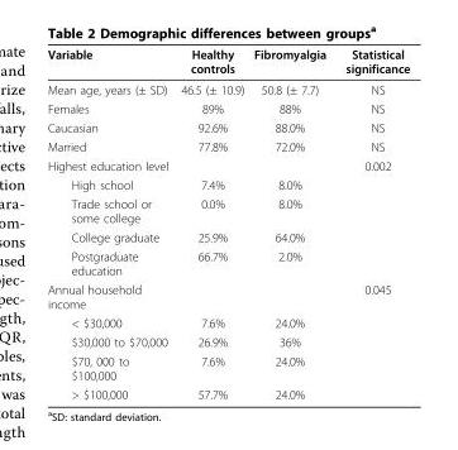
<table><thead><tr><td>Variable</td><td>Healthy controls</td><td>Fibromyalgia</td><td>Statistical significance</td></tr></thead><tbody><tr><td>Mean age, years (± SD)</td><td>46.5 (± 10.9)</td><td>50.8 (± 7.7)</td><td>NS</td></tr><tr><td>Females</td><td>89%</td><td>88%</td><td>NS</td></tr><tr><td>Caucasian</td><td>92.6%</td><td>88.0%</td><td>NS</td></tr><tr><td>Married</td><td>77.8%</td><td>72.0%</td><td>NS</td></tr><tr><td>Highest education level</td><td></td><td></td><td>0.002</td></tr><tr><td>High school</td><td>7.4%</td><td>8.0%</td><td></td></tr><tr><td>Trade school or some college</td><td>0.0%</td><td>8.0%</td><td></td></tr><tr><td>College graduate</td><td>25.9%</td><td>64.0%</td><td></td></tr><tr><td>Postgraduate education</td><td>66.7%</td><td>2.0%</td><td></td></tr><tr><td>Annual household income</td><td></td><td></td><td>0.045</td></tr><tr><td>&lt; $30,000</td><td>7.6%</td><td>24.0%</td><td></td></tr><tr><td>$30,000 to $70,000</td><td>26.9%</td><td>36%</td><td></td></tr><tr><td>$70, 000 to $100,000</td><td>7.6%</td><td>24.0%</td><td></td></tr><tr><td>&gt; $100,000</td><td>57.7%</td><td>24.0%</td><td></td></tr></tbody></table>